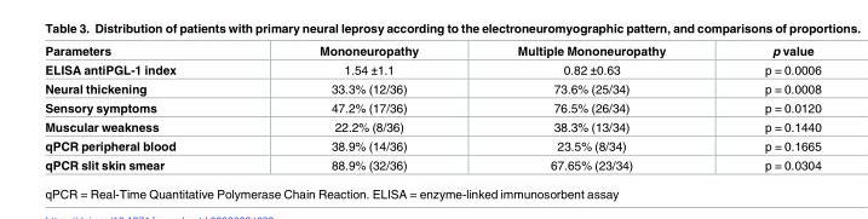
<table><thead><tr><td>Parameters</td><td>Mononeuropathy</td><td>Multiple Mononeuropathy</td><td>p value</td></tr></thead><tbody><tr><td>ELISA antiPGL-1 index</td><td>1.54 ±1.1</td><td>0.82 ±0.63</td><td>p = 0.0006</td></tr><tr><td>Neural thickening</td><td>33.3% (12/36)</td><td>73.6% (25/34)</td><td>p = 0.0008</td></tr><tr><td>Sensory symptoms</td><td>47.2% (17/36)</td><td>76.5% (26/34)</td><td>p = 0.0120</td></tr><tr><td>Muscular weakness</td><td>22.2% (8/36)</td><td>38.3% (13/34)</td><td>p = 0.1440</td></tr><tr><td>qPCR peripheral blood</td><td>38.9% (14/36)</td><td>23.5% (8/34)</td><td>p = 0.1665</td></tr><tr><td>qPCR slit skin smear</td><td>88.9% (32/36)</td><td>67.65% (23/34)</td><td>p = 0.0304</td></tr></tbody></table>